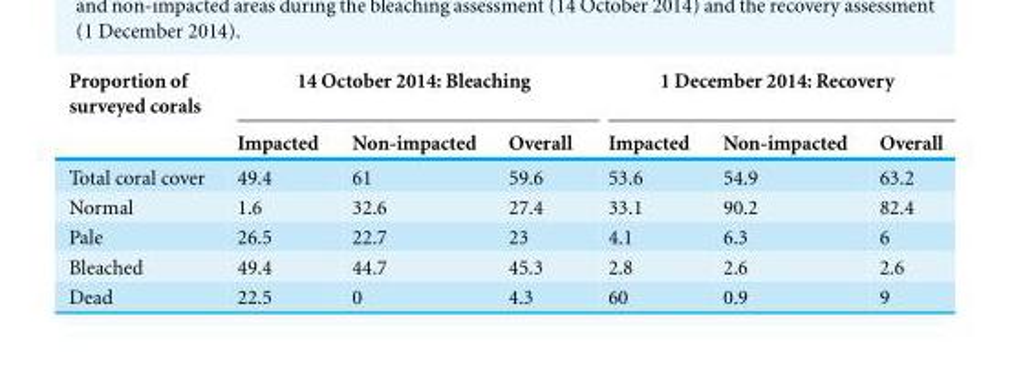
<table><thead><tr><td rowspan="2">Proportion of surveyed corals</td><td colspan="3">14 October 2014: Bleaching</td><td colspan="3">1 December 2014: Recovery</td></tr><tr><td>Impacted</td><td>Non-impacted</td><td>Overall</td><td>Impacted</td><td>Non-impacted</td><td>Overall</td></tr></thead><tbody><tr><td>Total coral cover</td><td>49.4</td><td>61</td><td>59.6</td><td>53.6</td><td>54.9</td><td>63.2</td></tr><tr><td>Normal</td><td>1.6</td><td>32.6</td><td>27.4</td><td>33.1</td><td>90.2</td><td>82.4</td></tr><tr><td>Pale</td><td>26.5</td><td>22.7</td><td>23</td><td>4.1</td><td>6.3</td><td>6</td></tr><tr><td>Bleached</td><td>49.4</td><td>44.7</td><td>45.3</td><td>2.8</td><td>2.6</td><td>2.6</td></tr><tr><td>Dead</td><td>22.5</td><td>0</td><td>4.3</td><td>60</td><td>0.9</td><td>9</td></tr></tbody></table>